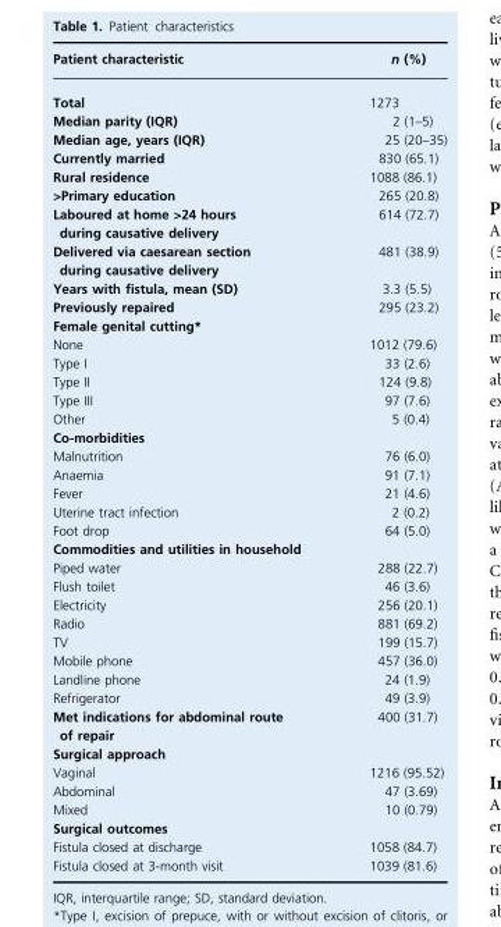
<table><thead><tr><td>Patient characteristic</td><td>n (%)</td></tr></thead><tbody><tr><td>Total</td><td>1273</td></tr><tr><td>Median parity (IQR)</td><td>2 (1–5)</td></tr><tr><td>Median age, years (IQR)</td><td>25 (20–35)</td></tr><tr><td>Currently married</td><td>830 (65.1)</td></tr><tr><td>Rural residence</td><td>1088 (86.1)</td></tr><tr><td>&gt;Primary education</td><td>265 (20.8)</td></tr><tr><td>Laboured at home &gt;24 hours during causative delivery</td><td>614 (72.7)</td></tr><tr><td>Delivered via caesarean section during causative delivery</td><td>481 (38.9)</td></tr><tr><td>Years with fistula, mean (SD)</td><td>3.3 (5.5)</td></tr><tr><td>Previously repaired</td><td>295 (23.2)</td></tr><tr><td colspan="2">Female genital cutting*</td></tr><tr><td>None</td><td>1012 (79.6)</td></tr><tr><td>Type I</td><td>33 (2.6)</td></tr><tr><td>Type II</td><td>124 (9.8)</td></tr><tr><td>Type III</td><td>97 (7.6)</td></tr><tr><td>Other</td><td>5 (0.4)</td></tr><tr><td colspan="2">Co-morbidities</td></tr><tr><td>Malnutrition</td><td>76 (6.0)</td></tr><tr><td>Anaemia</td><td>91 (7.1)</td></tr><tr><td>Fever</td><td>21 (4.6)</td></tr><tr><td>Uterine tract infection</td><td>2 (0.2)</td></tr><tr><td>Foot drop</td><td>64 (5.0)</td></tr><tr><td colspan="2">Commodities and utilities in household</td></tr><tr><td>Piped water</td><td>288 (22.7)</td></tr><tr><td>Flush toilet</td><td>46 (3.6)</td></tr><tr><td>Electricity</td><td>256 (20.1)</td></tr><tr><td>Radio</td><td>881 (69.2)</td></tr><tr><td>TV</td><td>199 (15.7)</td></tr><tr><td>Mobile phone</td><td>457 (36.0)</td></tr><tr><td>Landline phone</td><td>24 (1.9)</td></tr><tr><td>Refrigerator</td><td>49 (3.9)</td></tr><tr><td>Met indications for abdominal route of repair</td><td>400 (31.7)</td></tr><tr><td colspan="2">Surgical approach</td></tr><tr><td>Vaginal</td><td>1216 (95.52)</td></tr><tr><td>Abdominal</td><td>47 (3.69)</td></tr><tr><td>Mixed</td><td>10 (0.79)</td></tr><tr><td colspan="2">Surgical outcomes</td></tr><tr><td>Fistula closed at discharge</td><td>1058 (84.7)</td></tr><tr><td>Fistula closed at 3-month visit</td><td>1039 (81.6)</td></tr></tbody></table>